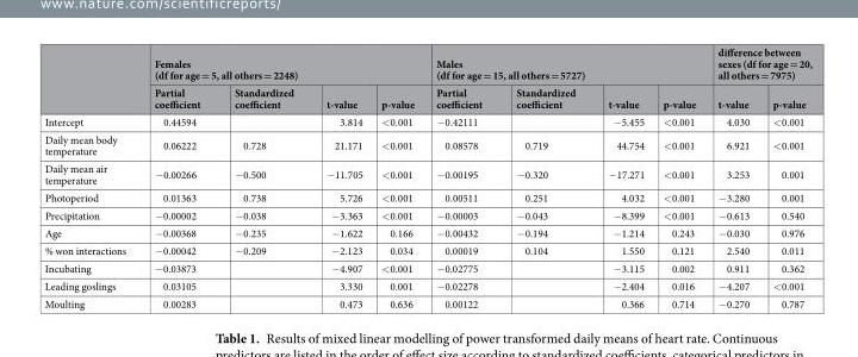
<table><thead><tr><td rowspan="2"></td><td colspan="4">Females (df for age = 5, all others = 2248)</td><td colspan="4">Males (df for age = 15, all others = 5727)</td><td colspan="2">difference between sexes (df for age = 20, all others = 7975)</td></tr><tr><td>Partial coefficient</td><td>Standardized coefficient</td><td>t-value</td><td>p-value</td><td>Partial coefficient</td><td>Standardized coefficient</td><td>t-value</td><td>p-value</td><td>t-value</td><td>p-value</td></tr></thead><tbody><tr><td>Intercept</td><td>0.44594</td><td></td><td>3.814</td><td>&lt;0.001</td><td>−0.42111</td><td></td><td>−5.455</td><td>&lt;0.001</td><td>4.030</td><td>&lt;0.001</td></tr><tr><td>Daily mean body temperature</td><td>0.06222</td><td>0.728</td><td>21.171</td><td>&lt;0.001</td><td>0.08578</td><td>0.719</td><td>44.754</td><td>&lt;0.001</td><td>6.921</td><td>&lt;0.001</td></tr><tr><td>Daily mean air temperature</td><td>−0.00266</td><td>−0.500</td><td>−11.705</td><td>&lt;0.001</td><td>−0.00195</td><td>−0.320</td><td>−17.271</td><td>&lt;0.001</td><td>3.253</td><td>0.001</td></tr><tr><td>Photoperiod</td><td>0.01363</td><td>0.738</td><td>5.726</td><td>&lt;0.001</td><td>0.00511</td><td>0.251</td><td>4.032</td><td>&lt;0.001</td><td>−3.280</td><td>0.001</td></tr><tr><td>Precipitation</td><td>−0.00002</td><td>−0.038</td><td>−3.363</td><td>&lt;0.001</td><td>−0.00003</td><td>−0.043</td><td>−8.399</td><td>&lt;0.001</td><td>−0.613</td><td>0.540</td></tr><tr><td>Age</td><td>−0.00368</td><td>−0.235</td><td>−1.622</td><td>0.166</td><td>−0.00432</td><td>−0.194</td><td>−1.214</td><td>0.243</td><td>−0.030</td><td>0.976</td></tr><tr><td>% won interactions</td><td>−0.00042</td><td>−0.209</td><td>−2.123</td><td>0.034</td><td>0.00019</td><td>0.104</td><td>1.550</td><td>0.121</td><td>2.540</td><td>0.011</td></tr><tr><td>Incubating</td><td>−0.03873</td><td></td><td>−4.907</td><td>&lt;0.001</td><td>−0.02775</td><td></td><td>−3.115</td><td>0.002</td><td>0.911</td><td>0.362</td></tr><tr><td>Leading goslings</td><td>0.03105</td><td></td><td>3.330</td><td>0.001</td><td>−0.02278</td><td></td><td>−2.404</td><td>0.016</td><td>−4.207</td><td>&lt;0.001</td></tr><tr><td>Moulting</td><td>0.00283</td><td></td><td>0.473</td><td>0.636</td><td>0.00122</td><td></td><td>0.366</td><td>0.714</td><td>−0.270</td><td>0.787</td></tr></tbody></table>